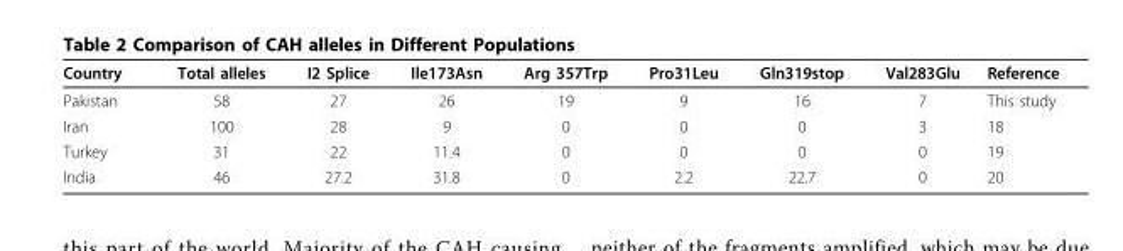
<table><thead><tr><td>Country</td><td>Total alleles</td><td>I2 Splice</td><td>Ile173Asn</td><td>Arg 357Trp</td><td>Pro31Leu</td><td>Gln319stop</td><td>Val283Glu</td><td>Reference</td></tr></thead><tbody><tr><td>Pakistan</td><td>58</td><td>27</td><td>26</td><td>19</td><td>9</td><td>16</td><td>7</td><td>This study</td></tr><tr><td>Iran</td><td>100</td><td>28</td><td>9</td><td>0</td><td>0</td><td>0</td><td>3</td><td>18</td></tr><tr><td>Turkey</td><td>31</td><td>22</td><td>11.4</td><td>0</td><td>0</td><td>0</td><td>0</td><td>19</td></tr><tr><td>India</td><td>46</td><td>27.2</td><td>31.8</td><td>0</td><td>2.2</td><td>22.7</td><td>0</td><td>20</td></tr></tbody></table>